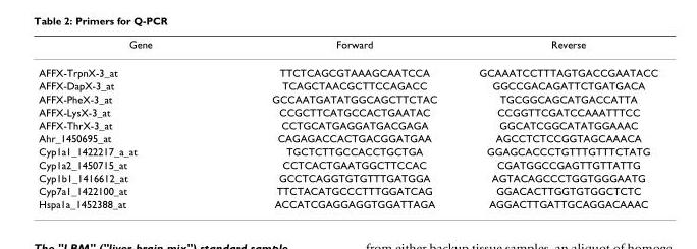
<table><thead><tr><td>Gene</td><td>Forward</td><td>Reverse</td></tr></thead><tbody><tr><td>AFFX-TrpnX-3_at</td><td>TTCTCAGCGTAAAGCAATCCA</td><td>GCAAATCCTTTAGTGACCGAATACC</td></tr><tr><td>AFFX-DapX-3_at</td><td>TCAGCTAACGCTTCCAGACC</td><td>GGCCGACAGATTCTGATGACA</td></tr><tr><td>AFFX-PheX-3_at</td><td>GCCAATGATATGGCAGCTTCTAC</td><td>TGCGGCAGCATGACCATTA</td></tr><tr><td>AFFX-LysX-3_at</td><td>CCGCTTCATGCCACTGAATAC</td><td>CCGGTTCGATCCAAATTTCC</td></tr><tr><td>AFFX-ThrX-3_at</td><td>CCTGCATGAGGATGACGAGA</td><td>GGCATCGGCATATGGAAAC</td></tr><tr><td>Ahr_1450695_at</td><td>CAGAGACCACTGACGGATGAA</td><td>AGCCTCTCCGGTAGCAAACA</td></tr><tr><td>Cyp1a1_1422217_a_at</td><td>TGCTCTTGCCACCTGCTGA</td><td>GGAGCACCCTGTTTGTTTCTATG</td></tr><tr><td>Cyp1a2_1450715_at</td><td>CCTCACTGAATGGCTTCCAC</td><td>CGATGGCCGAGTTGTTATTG</td></tr><tr><td>Cyp1b1_1416612_at</td><td>GCCTCAGGTGTGTTTGATGGA</td><td>AGTACAGCCCTGGTGGGAATG</td></tr><tr><td>Cyp7a1_1422100_at</td><td>TTCTACATGCCCTTTGGATCAG</td><td>GGACACTTGGTGTGGCTCTC</td></tr><tr><td>Hspa1a_1452388_at</td><td>ACCATCGAGGAGGTGGATTAGA</td><td>AGGACTTGATTGCAGGACAAAC</td></tr></tbody></table>